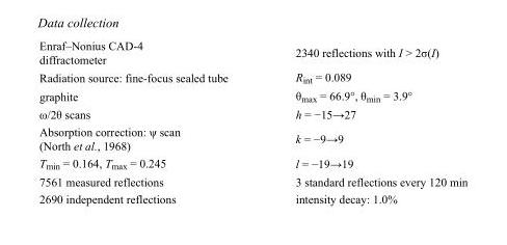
<table><tbody><tr><td>Enraf–Nonius CAD-4 diffractometer</td><td>2340 reflections with I &gt; 2σ(I)</td></tr><tr><td>Radiation source: fine-focus sealed tube</td><td>R<sub>int</sub> = 0.089</td></tr><tr><td>graphite</td><td>θ<sub>max</sub> = 66.9°, θ<sub>min</sub> = 3.9°</td></tr><tr><td>ω/2θ scans</td><td>h = −15→27</td></tr><tr><td>Absorption correction: ψ scan (North et al., 1968)</td><td>k = −9→9</td></tr><tr><td>T<sub>min</sub> = 0.164, T<sub>max</sub> = 0.245</td><td>l = −19→19</td></tr><tr><td>7561 measured reflections</td><td>3 standard reflections every 120 min</td></tr><tr><td>2690 independent reflections</td><td>intensity decay: 1.0%</td></tr></tbody></table>